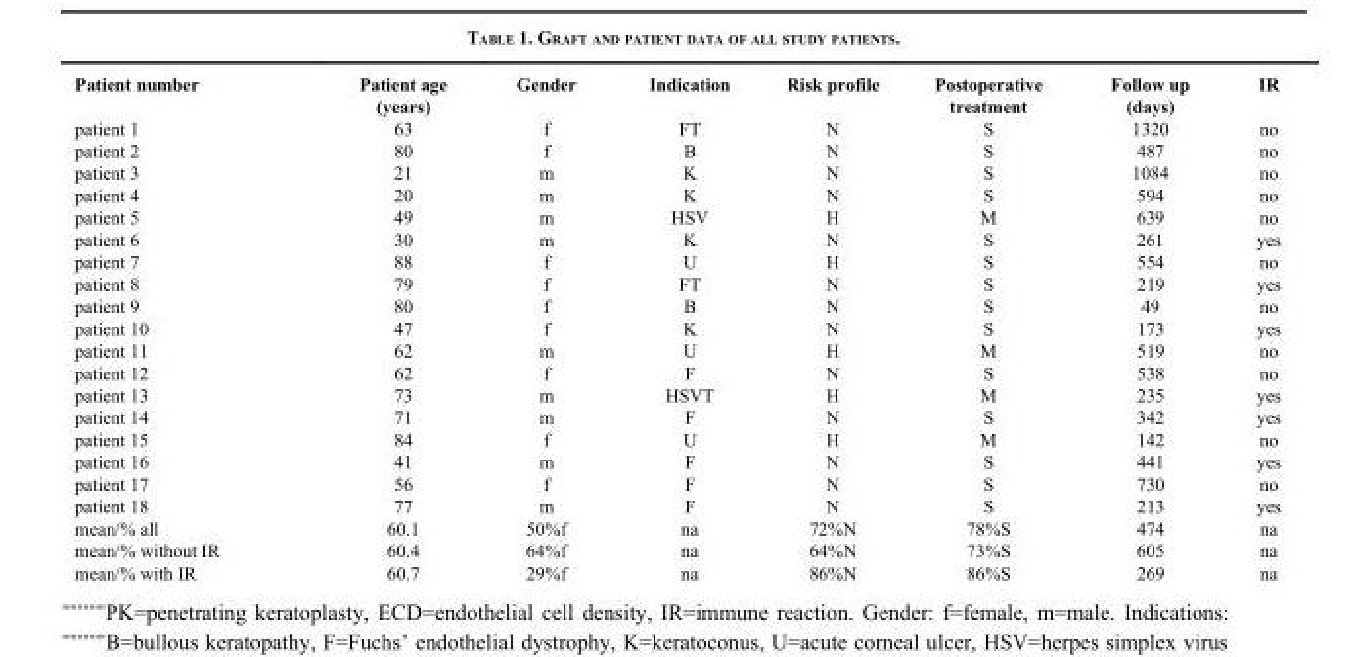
<table><thead><tr><td>Patient number</td><td>Patient age (years)</td><td>Gender</td><td>Indication</td><td>Risk profile</td><td>Postoperative treatment</td><td>Follow up (days)</td><td>IR</td></tr></thead><tbody><tr><td>patient 1</td><td>63</td><td>f</td><td>FT</td><td>N</td><td>S</td><td>1320</td><td>no</td></tr><tr><td>patient 2</td><td>80</td><td>f</td><td>B</td><td>N</td><td>S</td><td>487</td><td>no</td></tr><tr><td>patient 3</td><td>21</td><td>m</td><td>K</td><td>N</td><td>S</td><td>1084</td><td>no</td></tr><tr><td>patient 4</td><td>20</td><td>m</td><td>K</td><td>N</td><td>S</td><td>594</td><td>no</td></tr><tr><td>patient 5</td><td>49</td><td>m</td><td>HSV</td><td>H</td><td>M</td><td>639</td><td>no</td></tr><tr><td>patient 6</td><td>30</td><td>m</td><td>K</td><td>N</td><td>S</td><td>261</td><td>yes</td></tr><tr><td>patient 7</td><td>88</td><td>f</td><td>U</td><td>H</td><td>S</td><td>554</td><td>no</td></tr><tr><td>patient 8</td><td>79</td><td>f</td><td>FT</td><td>N</td><td>S</td><td>219</td><td>yes</td></tr><tr><td>patient 9</td><td>80</td><td>f</td><td>B</td><td>N</td><td>S</td><td>49</td><td>no</td></tr><tr><td>patient 10</td><td>47</td><td>f</td><td>K</td><td>N</td><td>S</td><td>173</td><td>yes</td></tr><tr><td>patient 11</td><td>62</td><td>m</td><td>U</td><td>H</td><td>M</td><td>519</td><td>no</td></tr><tr><td>patient 12</td><td>62</td><td>f</td><td>F</td><td>N</td><td>S</td><td>538</td><td>no</td></tr><tr><td>patient 13</td><td>73</td><td>m</td><td>HSVT</td><td>H</td><td>M</td><td>235</td><td>yes</td></tr><tr><td>patient 14</td><td>71</td><td>m</td><td>F</td><td>N</td><td>S</td><td>342</td><td>yes</td></tr><tr><td>patient 15</td><td>84</td><td>f</td><td>U</td><td>H</td><td>M</td><td>142</td><td>no</td></tr><tr><td>patient 16</td><td>41</td><td>m</td><td>F</td><td>N</td><td>S</td><td>441</td><td>yes</td></tr><tr><td>patient 17</td><td>56</td><td>f</td><td>F</td><td>N</td><td>S</td><td>730</td><td>no</td></tr><tr><td>patient 18</td><td>77</td><td>m</td><td>F</td><td>N</td><td>S</td><td>213</td><td>yes</td></tr><tr><td>mean/% all</td><td>60.1</td><td>50%f</td><td>na</td><td>72%N</td><td>78%S</td><td>474</td><td>na</td></tr><tr><td>mean/% without IR</td><td>60.4</td><td>64%f</td><td>na</td><td>64%N</td><td>73%S</td><td>605</td><td>na</td></tr><tr><td>mean/% with IR</td><td>60.7</td><td>29%f</td><td>na</td><td>86%N</td><td>86%S</td><td>269</td><td>na</td></tr></tbody></table>